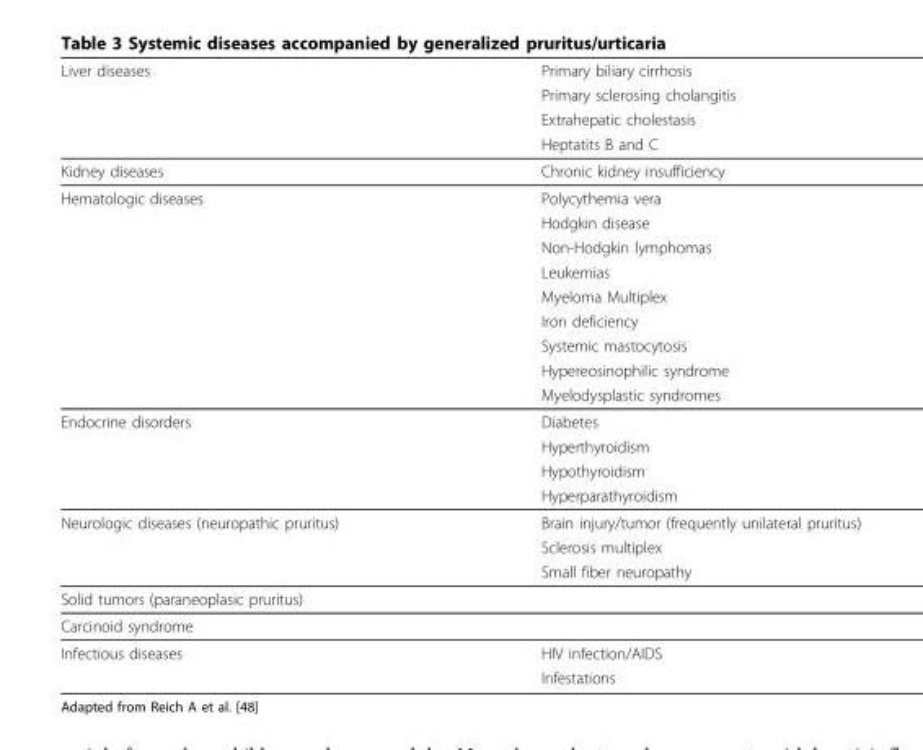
<table><thead><tr><td rowspan="4">Liver diseases</td><td rowspan="4">Primary biliary cirrhosis Primary sclerosing cholangitis Extrahepatic cholestasis Heptatits B and C</td></tr><tr></tr><tr></tr><tr></tr></thead><tbody><tr><td>Kidney diseases</td><td>Chronic kidney insufficiency</td></tr><tr><td rowspan="9">Hematologic diseases</td><td>Polycythemia vera</td></tr><tr><td>Hodgkin disease</td></tr><tr><td>Non-Hodgkin lymphomas</td></tr><tr><td>Leukemias</td></tr><tr><td>Myeloma Multiplex</td></tr><tr><td>Iron deficiency</td></tr><tr><td>Systemic mastocytosis</td></tr><tr><td>Hypereosinophilic syndrome</td></tr><tr><td>Myelodysplastic syndromes</td></tr><tr><td rowspan="4">Endocrine disorders</td><td>Diabetes</td></tr><tr><td>Hyperthyroidism</td></tr><tr><td>Hypothyroidism</td></tr><tr><td>Hyperparathyroidism</td></tr><tr><td rowspan="3">Neurologic diseases (neuropathic pruritus)</td><td>Brain injury/tumor (frequently unilateral pruritus)</td></tr><tr><td>Sclerosis multiplex</td></tr><tr><td>Small fiber neuropathy</td></tr><tr><td colspan="2">Solid tumors (paraneoplasic pruritus)</td></tr><tr><td colspan="2">Carcinoid syndrome</td></tr><tr><td rowspan="2">Infectious diseases</td><td>HIV infection/AIDS</td></tr><tr><td>Infestations</td></tr></tbody></table>